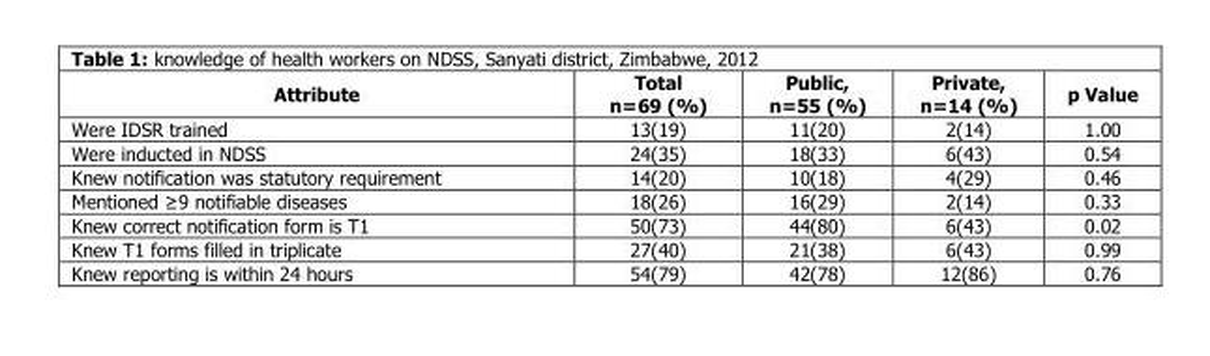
<table><thead><tr><td>Attribute</td><td>Total n=69 (%)</td><td>Public, n=55 (%)</td><td>Private, n=14 (%)</td><td>p Value</td></tr></thead><tbody><tr><td>Were IDSR trained</td><td>13(19)</td><td>11(20)</td><td>2(14)</td><td>1.00</td></tr><tr><td>Were inducted in NDSS</td><td>24(35)</td><td>18(33)</td><td>6(43)</td><td>0.54</td></tr><tr><td>Knew notification was statutory requirement</td><td>14(20)</td><td>10(18)</td><td>4(29)</td><td>0.46</td></tr><tr><td>Mentioned ≥9 notifiable diseases</td><td>18(26)</td><td>16(29)</td><td>2(14)</td><td>0.33</td></tr><tr><td>Knew correct notification form is T1</td><td>50(73)</td><td>44(80)</td><td>6(43)</td><td>0.02</td></tr><tr><td>Knew T1 forms filled in triplicate</td><td>27(40)</td><td>21(38)</td><td>6(43)</td><td>0.99</td></tr><tr><td>Knew reporting is within 24 hours</td><td>54(79)</td><td>42(78)</td><td>12(86)</td><td>0.76</td></tr></tbody></table>